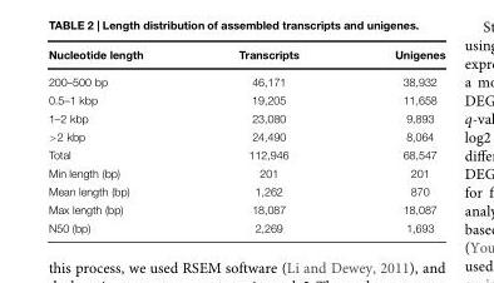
<table><thead><tr><td>Nucleotide length</td><td>Transcripts</td><td>Unigenes</td></tr></thead><tbody><tr><td>200–500 bp</td><td>46,171</td><td>38,932</td></tr><tr><td>0.5–1 kbp</td><td>19,205</td><td>11,658</td></tr><tr><td>1–2 kbp</td><td>23,080</td><td>9,893</td></tr><tr><td>&gt;2 kbp</td><td>24,490</td><td>8,064</td></tr><tr><td>Total</td><td>112,946</td><td>68,547</td></tr><tr><td>Min length (bp)</td><td>201</td><td>201</td></tr><tr><td>Mean length (bp)</td><td>1,262</td><td>870</td></tr><tr><td>Max length (bp)</td><td>18,087</td><td>18,087</td></tr><tr><td>N50 (bp)</td><td>2,269</td><td>1,693</td></tr></tbody></table>